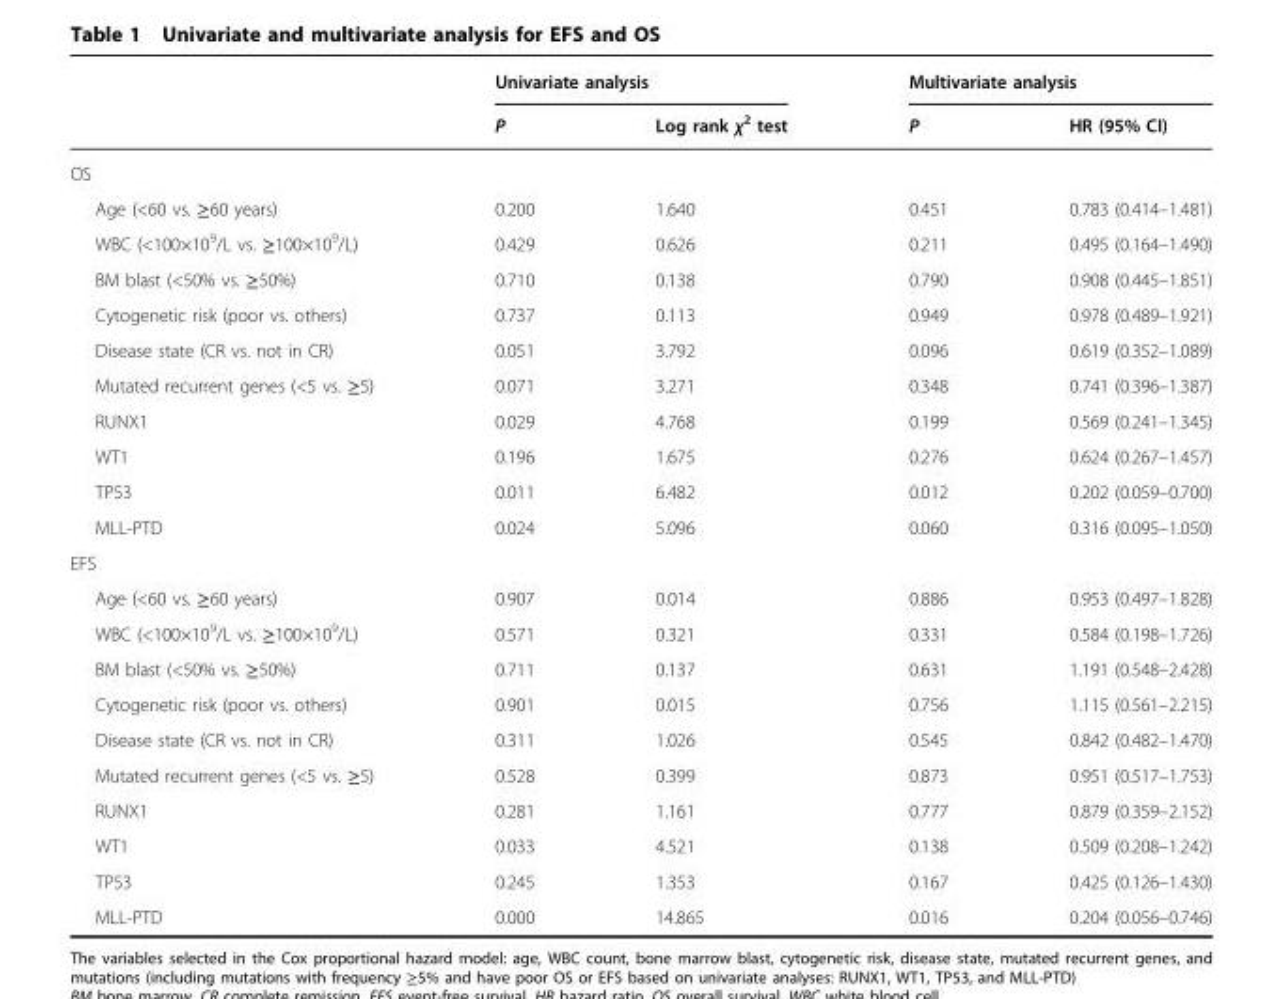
<table><thead><tr><td rowspan="2"></td><td colspan="2">Univariate analysis</td><td colspan="2">Multivariate analysis</td></tr><tr><td>P</td><td>Log rank χ<sup>2</sup> test</td><td>P</td><td>HR (95% CI)</td></tr></thead><tbody><tr><td colspan="5">OS</td></tr><tr><td>Age (&lt;60 vs. ≥60 years)</td><td>0.200</td><td>1.640</td><td>0.451</td><td>0.783 (0.414–1.481)</td></tr><tr><td>WBC (&lt;100×10<sup>9</sup>/L vs. ≥100×10<sup>9</sup>/L)</td><td>0.429</td><td>0.626</td><td>0.211</td><td>0.495 (0.164–1.490)</td></tr><tr><td>BM blast (&lt;50% vs. ≥50%)</td><td>0.710</td><td>0.138</td><td>0.790</td><td>0.908 (0.445–1.851)</td></tr><tr><td>Cytogenetic risk (poor vs. others)</td><td>0.737</td><td>0.113</td><td>0.949</td><td>0.978 (0.489–1.921)</td></tr><tr><td>Disease state (CR vs. not in CR)</td><td>0.051</td><td>3.792</td><td>0.096</td><td>0.619 (0.352–1.089)</td></tr><tr><td>Mutated recurrent genes (&lt;5 vs. ≥5)</td><td>0.071</td><td>3.271</td><td>0.348</td><td>0.741 (0.396–1.387)</td></tr><tr><td>RUNX1</td><td>0.029</td><td>4.768</td><td>0.199</td><td>0.569 (0.241–1.345)</td></tr><tr><td>WT1</td><td>0.196</td><td>1.675</td><td>0.276</td><td>0.624 (0.267–1.457)</td></tr><tr><td>TP53</td><td>0.011</td><td>6.482</td><td>0.012</td><td>0.202 (0.059–0.700)</td></tr><tr><td>MLL-PTD</td><td>0.024</td><td>5.096</td><td>0.060</td><td>0.316 (0.095–1.050)</td></tr><tr><td colspan="5">EFS</td></tr><tr><td>Age (&lt;60 vs. ≥60 years)</td><td>0.907</td><td>0.014</td><td>0.886</td><td>0.953 (0.497–1.828)</td></tr><tr><td>WBC (&lt;100×10<sup>9</sup>/L vs. ≥100×10<sup>9</sup>/L)</td><td>0.571</td><td>0.321</td><td>0.331</td><td>0.584 (0.198–1.726)</td></tr><tr><td>BM blast (&lt;50% vs. ≥50%)</td><td>0.711</td><td>0.137</td><td>0.631</td><td>1.191 (0.548–2.428)</td></tr><tr><td>Cytogenetic risk (poor vs. others)</td><td>0.901</td><td>0.015</td><td>0.756</td><td>1.115 (0.561–2.215)</td></tr><tr><td>Disease state (CR vs. not in CR)</td><td>0.311</td><td>1.026</td><td>0.545</td><td>0.842 (0.482–1.470)</td></tr><tr><td>Mutated recurrent genes (&lt;5 vs. ≥5)</td><td>0.528</td><td>0.399</td><td>0.873</td><td>0.951 (0.517–1.753)</td></tr><tr><td>RUNX1</td><td>0.281</td><td>1.161</td><td>0.777</td><td>0.879 (0.359–2.152)</td></tr><tr><td>WT1</td><td>0.033</td><td>4.521</td><td>0.138</td><td>0.509 (0.208–1.242)</td></tr><tr><td>TP53</td><td>0.245</td><td>1.353</td><td>0.167</td><td>0.425 (0.126–1.430)</td></tr><tr><td>MLL-PTD</td><td>0.000</td><td>14.865</td><td>0.016</td><td>0.204 (0.056–0.746)</td></tr></tbody></table>